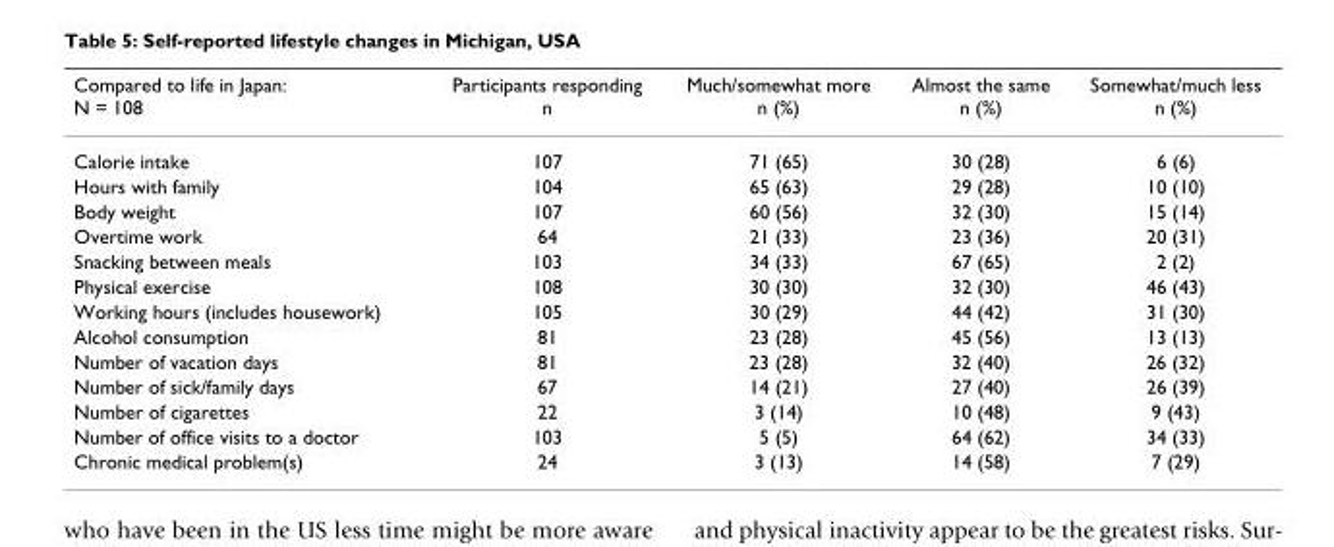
<table><thead><tr><td>Compared to life in Japan: N = 108</td><td>Participants responding n</td><td>Much/somewhat more n (%)</td><td>Almost the same n (%)</td><td>Somewhat/much less n (%)</td></tr></thead><tbody><tr><td>Calorie intake</td><td>107</td><td>71 (65)</td><td>30 (28)</td><td>6 (6)</td></tr><tr><td>Hours with family</td><td>104</td><td>65 (63)</td><td>29 (28)</td><td>10 (10)</td></tr><tr><td>Body weight</td><td>107</td><td>60 (56)</td><td>32 (30)</td><td>15 (14)</td></tr><tr><td>Overtime work</td><td>64</td><td>21 (33)</td><td>23 (36)</td><td>20 (31)</td></tr><tr><td>Snacking between meals</td><td>103</td><td>34 (33)</td><td>67 (65)</td><td>2 (2)</td></tr><tr><td>Physical exercise</td><td>108</td><td>30 (30)</td><td>32 (30)</td><td>46 (43)</td></tr><tr><td>Working hours (includes housework)</td><td>105</td><td>30 (29)</td><td>44 (42)</td><td>31 (30)</td></tr><tr><td>Alcohol consumption</td><td>81</td><td>23 (28)</td><td>45 (56)</td><td>13 (13)</td></tr><tr><td>Number of vacation days</td><td>81</td><td>23 (28)</td><td>32 (40)</td><td>26 (32)</td></tr><tr><td>Number of sick/family days</td><td>67</td><td>14 (21)</td><td>27 (40)</td><td>26 (39)</td></tr><tr><td>Number of cigarettes</td><td>22</td><td>3 (14)</td><td>10 (48)</td><td>9 (43)</td></tr><tr><td>Number of office visits to a doctor</td><td>103</td><td>5 (5)</td><td>64 (62)</td><td>34 (33)</td></tr><tr><td>Chronic medical problem(s)</td><td>24</td><td>3 (13)</td><td>14 (58)</td><td>7 (29)</td></tr></tbody></table>